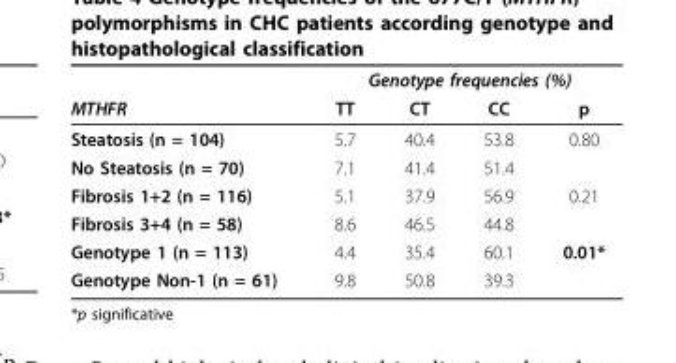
<table><thead><tr><td rowspan="2">MTHFR</td><td colspan="4">Genotype frequencies (%)</td></tr><tr><td>TT</td><td>CT</td><td>CC</td><td>p</td></tr></thead><tbody><tr><td>Steatosis (n = 104)</td><td>5.7</td><td>40.4</td><td>53.8</td><td>0.80</td></tr><tr><td>No Steatosis (n = 70)</td><td>7.1</td><td>41.4</td><td>51.4</td><td></td></tr><tr><td>Fibrosis 1+2 (n = 116)</td><td>5.1</td><td>37.9</td><td>56.9</td><td>0.21</td></tr><tr><td>Fibrosis 3+4 (n = 58)</td><td>8.6</td><td>46.5</td><td>44.8</td><td></td></tr><tr><td>Genotype 1 (n = 113)</td><td>4.4</td><td>35.4</td><td>60.1</td><td>0.01*</td></tr><tr><td>Genotype Non-1 (n = 61)</td><td>9.8</td><td>50.8</td><td>39.3</td><td></td></tr></tbody></table>